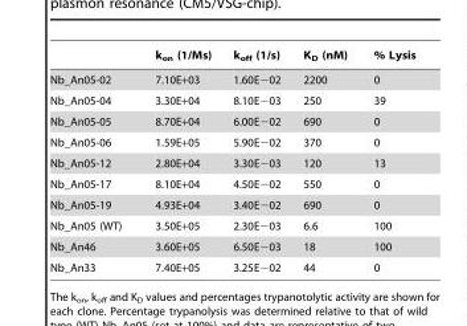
<table><thead><tr><td></td><td>k<sub>on</sub> (1/Ms)</td><td>k<sub>off</sub> (1/s)</td><td>K<sub>D</sub> (nM)</td><td>% Lysis</td></tr></thead><tbody><tr><td>Nb_An05-02</td><td>7.10E+03</td><td>1.60E−02</td><td>2200</td><td>0</td></tr><tr><td>Nb_An05-04</td><td>3.30E+04</td><td>8.10E−03</td><td>250</td><td>39</td></tr><tr><td>Nb_An05-05</td><td>8.70E+04</td><td>6.00E−02</td><td>690</td><td>0</td></tr><tr><td>Nb_An05-06</td><td>1.59E+05</td><td>5.90E−02</td><td>370</td><td>0</td></tr><tr><td>Nb_An05-12</td><td>2.80E+04</td><td>3.30E−03</td><td>120</td><td>13</td></tr><tr><td>Nb_An05-17</td><td>8.10E+04</td><td>4.50E−02</td><td>550</td><td>0</td></tr><tr><td>Nb_An05-19</td><td>4.93E+04</td><td>3.40E−02</td><td>690</td><td>0</td></tr><tr><td>Nb_An05 (WT)</td><td>3.50E+05</td><td>2.30E−03</td><td>6.6</td><td>100</td></tr><tr><td>Nb_An46</td><td>3.60E+05</td><td>6.50E−03</td><td>18</td><td>100</td></tr><tr><td>Nb_An33</td><td>7.40E+05</td><td>3.25E−02</td><td>44</td><td>0</td></tr></tbody></table>